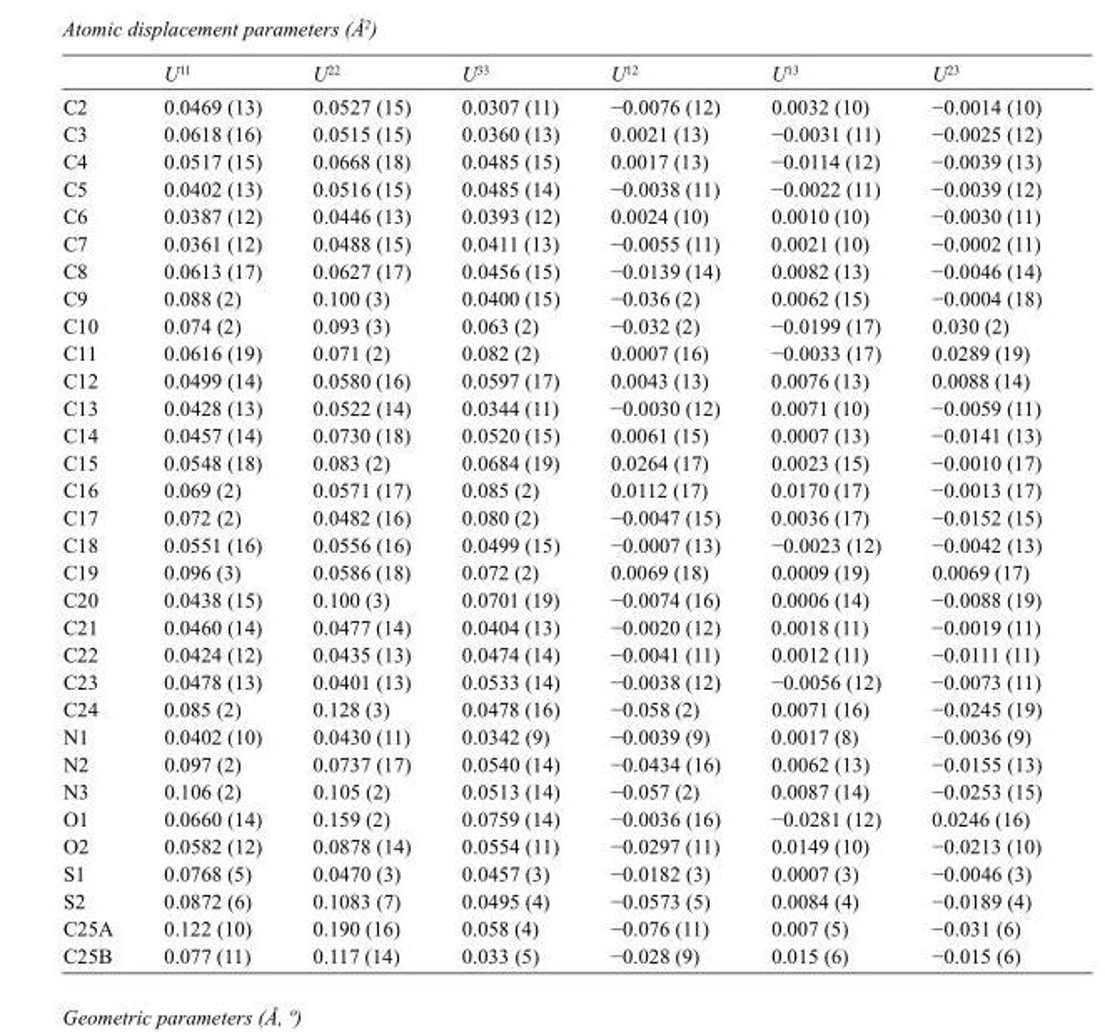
<table><thead><tr><td></td><td>U<sup>11</sup></td><td>U<sup>22</sup></td><td>U<sup>33</sup></td><td>U<sup>12</sup></td><td>U<sup>13</sup></td><td>U<sup>23</sup></td></tr></thead><tbody><tr><td>C2</td><td>0.0469 (13)</td><td>0.0527 (15)</td><td>0.0307 (11)</td><td>−0.0076 (12)</td><td>0.0032 (10)</td><td>−0.0014 (10)</td></tr><tr><td>C3</td><td>0.0618 (16)</td><td>0.0515 (15)</td><td>0.0360 (13)</td><td>0.0021 (13)</td><td>−0.0031 (11)</td><td>−0.0025 (12)</td></tr><tr><td>C4</td><td>0.0517 (15)</td><td>0.0668 (18)</td><td>0.0485 (15)</td><td>0.0017 (13)</td><td>−0.0114 (12)</td><td>−0.0039 (13)</td></tr><tr><td>C5</td><td>0.0402 (13)</td><td>0.0516 (15)</td><td>0.0485 (14)</td><td>−0.0038 (11)</td><td>−0.0022 (11)</td><td>−0.0039 (12)</td></tr><tr><td>C6</td><td>0.0387 (12)</td><td>0.0446 (13)</td><td>0.0393 (12)</td><td>0.0024 (10)</td><td>0.0010 (10)</td><td>−0.0030 (11)</td></tr><tr><td>C7</td><td>0.0361 (12)</td><td>0.0488 (15)</td><td>0.0411 (13)</td><td>−0.0055 (11)</td><td>0.0021 (10)</td><td>−0.0002 (11)</td></tr><tr><td>C8</td><td>0.0613 (17)</td><td>0.0627 (17)</td><td>0.0456 (15)</td><td>−0.0139 (14)</td><td>0.0082 (13)</td><td>−0.0046 (14)</td></tr><tr><td>C9</td><td>0.088 (2)</td><td>0.100 (3)</td><td>0.0400 (15)</td><td>−0.036 (2)</td><td>0.0062 (15)</td><td>−0.0004 (18)</td></tr><tr><td>C10</td><td>0.074 (2)</td><td>0.093 (3)</td><td>0.063 (2)</td><td>−0.032 (2)</td><td>−0.0199 (17)</td><td>0.030 (2)</td></tr><tr><td>C11</td><td>0.0616 (19)</td><td>0.071 (2)</td><td>0.082 (2)</td><td>0.0007 (16)</td><td>−0.0033 (17)</td><td>0.0289 (19)</td></tr><tr><td>C12</td><td>0.0499 (14)</td><td>0.0580 (16)</td><td>0.0597 (17)</td><td>0.0043 (13)</td><td>0.0076 (13)</td><td>0.0088 (14)</td></tr><tr><td>C13</td><td>0.0428 (13)</td><td>0.0522 (14)</td><td>0.0344 (11)</td><td>−0.0030 (12)</td><td>0.0071 (10)</td><td>−0.0059 (11)</td></tr><tr><td>C14</td><td>0.0457 (14)</td><td>0.0730 (18)</td><td>0.0520 (15)</td><td>0.0061 (15)</td><td>0.0007 (13)</td><td>−0.0141 (13)</td></tr><tr><td>C15</td><td>0.0548 (18)</td><td>0.083 (2)</td><td>0.0684 (19)</td><td>0.0264 (17)</td><td>0.0023 (15)</td><td>−0.0010 (17)</td></tr><tr><td>C16</td><td>0.069 (2)</td><td>0.0571 (17)</td><td>0.085 (2)</td><td>0.0112 (17)</td><td>0.0170 (17)</td><td>−0.0013 (17)</td></tr><tr><td>C17</td><td>0.072 (2)</td><td>0.0482 (16)</td><td>0.080 (2)</td><td>−0.0047 (15)</td><td>0.0036 (17)</td><td>−0.0152 (15)</td></tr><tr><td>C18</td><td>0.0551 (16)</td><td>0.0556 (16)</td><td>0.0499 (15)</td><td>−0.0007 (13)</td><td>−0.0023 (12)</td><td>−0.0042 (13)</td></tr><tr><td>C19</td><td>0.096 (3)</td><td>0.0586 (18)</td><td>0.072 (2)</td><td>0.0069 (18)</td><td>0.0009 (19)</td><td>0.0069 (17)</td></tr><tr><td>C20</td><td>0.0438 (15)</td><td>0.100 (3)</td><td>0.0701 (19)</td><td>−0.0074 (16)</td><td>0.0006 (14)</td><td>−0.0088 (19)</td></tr><tr><td>C21</td><td>0.0460 (14)</td><td>0.0477 (14)</td><td>0.0404 (13)</td><td>−0.0020 (12)</td><td>0.0018 (11)</td><td>−0.0019 (11)</td></tr><tr><td>C22</td><td>0.0424 (12)</td><td>0.0435 (13)</td><td>0.0474 (14)</td><td>−0.0041 (11)</td><td>0.0012 (11)</td><td>−0.0111 (11)</td></tr><tr><td>C23</td><td>0.0478 (13)</td><td>0.0401 (13)</td><td>0.0533 (14)</td><td>−0.0038 (12)</td><td>−0.0056 (12)</td><td>−0.0073 (11)</td></tr><tr><td>C24</td><td>0.085 (2)</td><td>0.128 (3)</td><td>0.0478 (16)</td><td>−0.058 (2)</td><td>0.0071 (16)</td><td>−0.0245 (19)</td></tr><tr><td>N1</td><td>0.0402 (10)</td><td>0.0430 (11)</td><td>0.0342 (9)</td><td>−0.0039 (9)</td><td>0.0017 (8)</td><td>−0.0036 (9)</td></tr><tr><td>N2</td><td>0.097 (2)</td><td>0.0737 (17)</td><td>0.0540 (14)</td><td>−0.0434 (16)</td><td>0.0062 (13)</td><td>−0.0155 (13)</td></tr><tr><td>N3</td><td>0.106 (2)</td><td>0.105 (2)</td><td>0.0513 (14)</td><td>−0.057 (2)</td><td>0.0087 (14)</td><td>−0.0253 (15)</td></tr><tr><td>O1</td><td>0.0660 (14)</td><td>0.159 (2)</td><td>0.0759 (14)</td><td>−0.0036 (16)</td><td>−0.0281 (12)</td><td>0.0246 (16)</td></tr><tr><td>O2</td><td>0.0582 (12)</td><td>0.0878 (14)</td><td>0.0554 (11)</td><td>−0.0297 (11)</td><td>0.0149 (10)</td><td>−0.0213 (10)</td></tr><tr><td>S1</td><td>0.0768 (5)</td><td>0.0470 (3)</td><td>0.0457 (3)</td><td>−0.0182 (3)</td><td>0.0007 (3)</td><td>−0.0046 (3)</td></tr><tr><td>S2</td><td>0.0872 (6)</td><td>0.1083 (7)</td><td>0.0495 (4)</td><td>−0.0573 (5)</td><td>0.0084 (4)</td><td>−0.0189 (4)</td></tr><tr><td>C25A</td><td>0.122 (10)</td><td>0.190 (16)</td><td>0.058 (4)</td><td>−0.076 (11)</td><td>0.007 (5)</td><td>−0.031 (6)</td></tr><tr><td>C25B</td><td>0.077 (11)</td><td>0.117 (14)</td><td>0.033 (5)</td><td>−0.028 (9)</td><td>0.015 (6)</td><td>−0.015 (6)</td></tr></tbody></table>